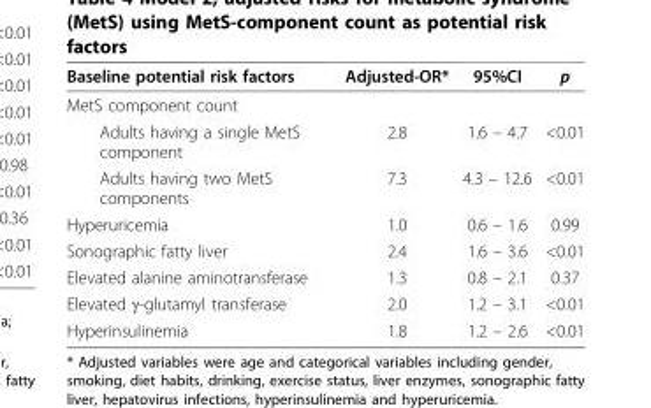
<table><thead><tr><td>Baseline potential risk factors</td><td>Adjusted-OR*</td><td>95%CI</td><td>p</td></tr></thead><tbody><tr><td colspan="4">MetS component count</td></tr><tr><td>Adults having a single MetS component</td><td>2.8</td><td>1.6 – 4.7</td><td>&lt;0.01</td></tr><tr><td>Adults having two MetS components</td><td>7.3</td><td>4.3 – 12.6</td><td>&lt;0.01</td></tr><tr><td>Hyperuricemia</td><td>1.0</td><td>0.6 – 1.6</td><td>0.99</td></tr><tr><td>Sonographic fatty liver</td><td>2.4</td><td>1.6 – 3.6</td><td>&lt;0.01</td></tr><tr><td>Elevated alanine aminotransferase</td><td>1.3</td><td>0.8 – 2.1</td><td>0.37</td></tr><tr><td>Elevated γ-glutamyl transferase</td><td>2.0</td><td>1.2 – 3.1</td><td>&lt;0.01</td></tr><tr><td>Hyperinsulinemia</td><td>1.8</td><td>1.2 – 2.6</td><td>&lt;0.01</td></tr></tbody></table>